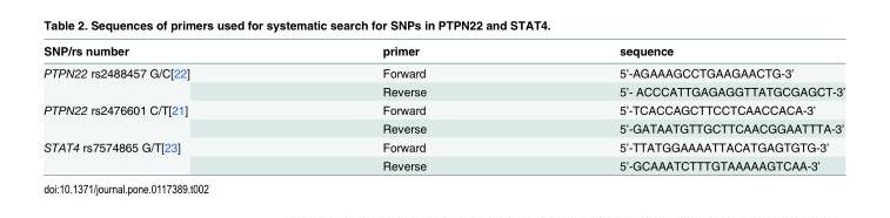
<table><thead><tr><td>SNP/rs number</td><td>primer</td><td>sequence</td></tr></thead><tbody><tr><td rowspan="2">PTPN22 rs2488457 G/C[22]</td><td>Forward</td><td>5’-AGAAAGCCTGAAGAACTG-3’</td></tr><tr><td>Reverse</td><td>5’- ACCCATTGAGAGGTTATGCGAGCT-3’</td></tr><tr><td rowspan="2">PTPN22 rs2476601 C/T[21]</td><td>Forward</td><td>5’-TCACCAGCTTCCTCAACCACA-3’</td></tr><tr><td>Reverse</td><td>5’-GATAATGTTGCTTCAACGGAATTTA-3’</td></tr><tr><td rowspan="2">STAT4 rs7574865 G/T[23]</td><td>Forward</td><td>5’-TTATGGAAAATTACATGAGTGTG-3’</td></tr><tr><td>Reverse</td><td>5’-GCAAATCTTTGTAAAAAGTCAA-3’</td></tr></tbody></table>